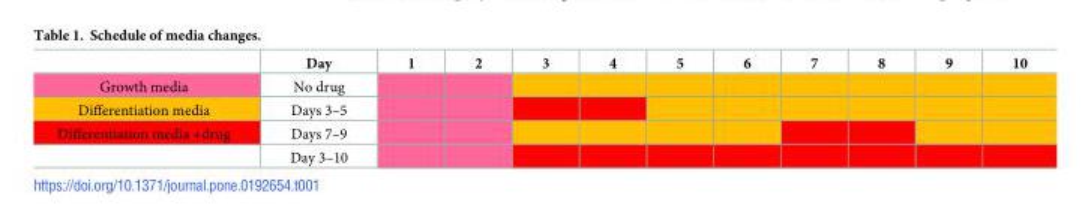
<table><thead><tr><td></td><td>Day</td><td>1</td><td>2</td><td>3</td><td>4</td><td>5</td><td>6</td><td>7</td><td>8</td><td>9</td><td>10</td></tr></thead><tbody><tr><td>Growth media</td><td>No drug</td><td></td><td></td><td></td><td></td><td></td><td></td><td></td><td></td><td></td><td></td></tr><tr><td>Differentiation media</td><td>Days 3–5</td><td></td><td></td><td></td><td></td><td></td><td></td><td></td><td></td><td></td><td></td></tr><tr><td rowspan="2">Differentiation media +drug</td><td>Days 7–9</td><td></td><td></td><td></td><td></td><td></td><td></td><td></td><td></td><td></td><td></td></tr><tr><td>Day 3–10</td><td></td><td></td><td></td><td></td><td></td><td></td><td></td><td></td><td></td><td></td></tr></tbody></table>